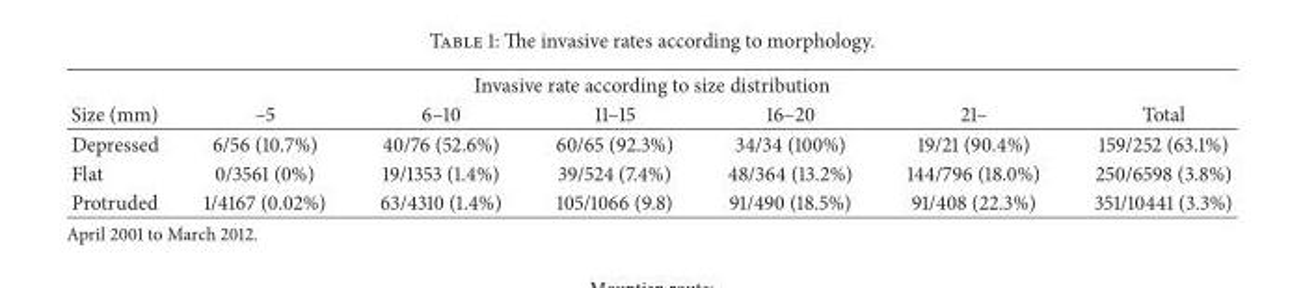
<table><thead><tr><td colspan="7">Invasive rate according to size distribution</td></tr><tr><td>Size (mm)</td><td>–5</td><td>6–10</td><td>11–15</td><td>16–20</td><td>21–</td><td>Total</td></tr></thead><tbody><tr><td>Depressed</td><td>6/56 (10.7%)</td><td>40/76 (52.6%)</td><td>60/65 (92.3%)</td><td>34/34 (100%)</td><td>19/21 (90.4%)</td><td>159/252 (63.1%)</td></tr><tr><td>Flat</td><td>0/3561 (0%)</td><td>19/1353 (1.4%)</td><td>39/524 (7.4%)</td><td>48/364 (13.2%)</td><td>144/796 (18.0%)</td><td>250/6598 (3.8%)</td></tr><tr><td>Protruded</td><td>1/4167 (0.02%)</td><td>63/4310 (1.4%)</td><td>105/1066 (9.8)</td><td>91/490 (18.5%)</td><td>91/408 (22.3%)</td><td>351/10441 (3.3%)</td></tr></tbody></table>